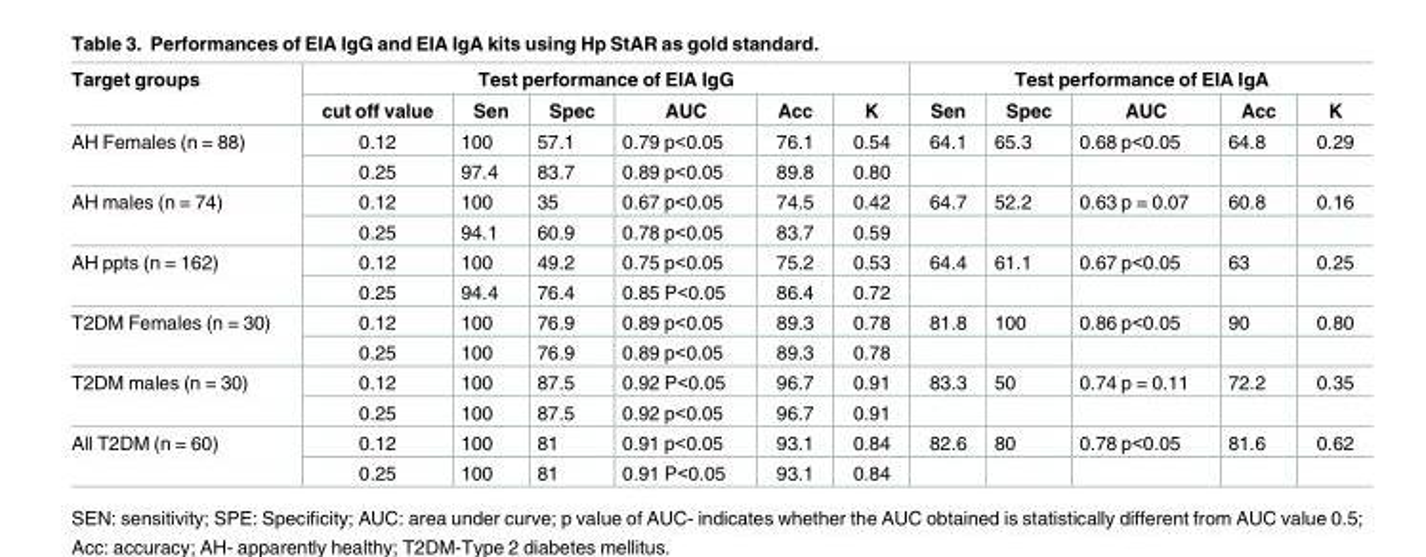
<table><thead><tr><td rowspan="2">Target groups</td><td colspan="6">Test performance of EIA IgG</td><td colspan="5">Test performance of EIA IgA</td></tr><tr><td>cut off value</td><td>Sen</td><td>Spec</td><td>AUC</td><td>Acc</td><td>K</td><td>Sen</td><td>Spec</td><td>AUC</td><td>Acc</td><td>K</td></tr></thead><tbody><tr><td rowspan="2">AH Females (n = 88)</td><td>0.12</td><td>100</td><td>57.1</td><td>0.79 p&lt;0.05</td><td>76.1</td><td>0.54</td><td>64.1</td><td>65.3</td><td>0.68 p&lt;0.05</td><td>64.8</td><td>0.29</td></tr><tr><td>0.25</td><td>97.4</td><td>83.7</td><td>0.89 p&lt;0.05</td><td>89.8</td><td>0.80</td><td></td><td></td><td></td><td></td><td></td></tr><tr><td rowspan="2">AH males (n = 74)</td><td>0.12</td><td>100</td><td>35</td><td>0.67 p&lt;0.05</td><td>74.5</td><td>0.42</td><td>64.7</td><td>52.2</td><td>0.63 p = 0.07</td><td>60.8</td><td>0.16</td></tr><tr><td>0.25</td><td>94.1</td><td>60.9</td><td>0.78 p&lt;0.05</td><td>83.7</td><td>0.59</td><td></td><td></td><td></td><td></td><td></td></tr><tr><td rowspan="2">AH ppts (n = 162)</td><td>0.12</td><td>100</td><td>49.2</td><td>0.75 p&lt;0.05</td><td>75.2</td><td>0.53</td><td>64.4</td><td>61.1</td><td>0.67 p&lt;0.05</td><td>63</td><td>0.25</td></tr><tr><td>0.25</td><td>94.4</td><td>76.4</td><td>0.85 P&lt;0.05</td><td>86.4</td><td>0.72</td><td></td><td></td><td></td><td></td><td></td></tr><tr><td rowspan="2">T2DM Females (n = 30)</td><td>0.12</td><td>100</td><td>76.9</td><td>0.89 p&lt;0.05</td><td>89.3</td><td>0.78</td><td>81.8</td><td>100</td><td>0.86 p&lt;0.05</td><td>90</td><td>0.80</td></tr><tr><td>0.25</td><td>100</td><td>76.9</td><td>0.89 p&lt;0.05</td><td>89.3</td><td>0.78</td><td></td><td></td><td></td><td></td><td></td></tr><tr><td rowspan="2">T2DM males (n = 30)</td><td>0.12</td><td>100</td><td>87.5</td><td>0.92 P&lt;0.05</td><td>96.7</td><td>0.91</td><td>83.3</td><td>50</td><td>0.74 p = 0.11</td><td>72.2</td><td>0.35</td></tr><tr><td>0.25</td><td>100</td><td>87.5</td><td>0.92 p&lt;0.05</td><td>96.7</td><td>0.91</td><td></td><td></td><td></td><td></td><td></td></tr><tr><td rowspan="2">All T2DM (n = 60)</td><td>0.12</td><td>100</td><td>81</td><td>0.91 p&lt;0.05</td><td>93.1</td><td>0.84</td><td>82.6</td><td>80</td><td>0.78 p&lt;0.05</td><td>81.6</td><td>0.62</td></tr><tr><td>0.25</td><td>100</td><td>81</td><td>0.91 P&lt;0.05</td><td>93.1</td><td>0.84</td><td></td><td></td><td></td><td></td><td></td></tr></tbody></table>